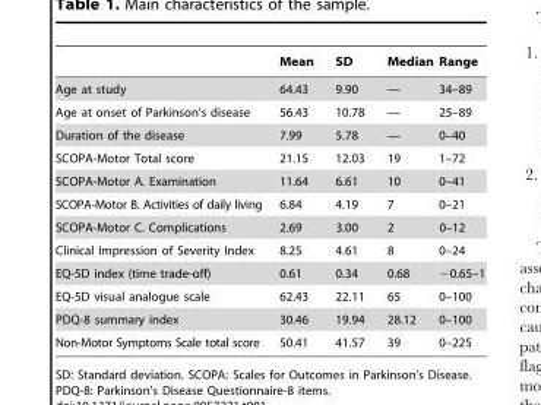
<table><thead><tr><td></td><td>Mean</td><td>SD</td><td>Median</td><td>Range</td></tr></thead><tbody><tr><td>Age at study</td><td>64.43</td><td>9.90</td><td>—</td><td>34–89</td></tr><tr><td>Age at onset of Parkinson’s disease</td><td>56.43</td><td>10.78</td><td>—</td><td>25–89</td></tr><tr><td>Duration of the disease</td><td>7.99</td><td>5.78</td><td>—</td><td>0–40</td></tr><tr><td>SCOPA-Motor Total score</td><td>21.15</td><td>12.03</td><td>19</td><td>1–72</td></tr><tr><td>SCOPA-Motor A. Examination</td><td>11.64</td><td>6.61</td><td>10</td><td>0–41</td></tr><tr><td>SCOPA-Motor B. Activities of daily living</td><td>6.84</td><td>4.19</td><td>7</td><td>0–21</td></tr><tr><td>SCOPA-Motor C. Complications</td><td>2.69</td><td>3.00</td><td>2</td><td>0–12</td></tr><tr><td>Clinical Impression of Severity Index</td><td>8.25</td><td>4.61</td><td>8</td><td>0–24</td></tr><tr><td>EQ-5D index (time trade-off)</td><td>0.61</td><td>0.34</td><td>0.68</td><td>−0.65–1</td></tr><tr><td>EQ-5D visual analogue scale</td><td>62.43</td><td>22.11</td><td>65</td><td>0–100</td></tr><tr><td>PDQ-8 summary index</td><td>30.46</td><td>19.94</td><td>28.12</td><td>0–100</td></tr><tr><td>Non-Motor Symptoms Scale total score</td><td>50.41</td><td>41.57</td><td>39</td><td>0–225</td></tr></tbody></table>